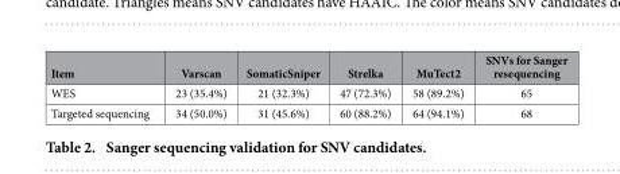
<table><thead><tr><td>Item</td><td>Varscan</td><td>SomaticSniper</td><td>Strelka</td><td>MuTect2</td><td>SNVs for Sanger resequencing</td></tr></thead><tbody><tr><td>WES</td><td>23 (35.4%)</td><td>21 (32.3%)</td><td>47 (72.3%)</td><td>58 (89.2%)</td><td>65</td></tr><tr><td>Targeted sequencing</td><td>34 (50.0%)</td><td>31 (45.6%)</td><td>60 (88.2%)</td><td>64 (94.1%)</td><td>68</td></tr></tbody></table>